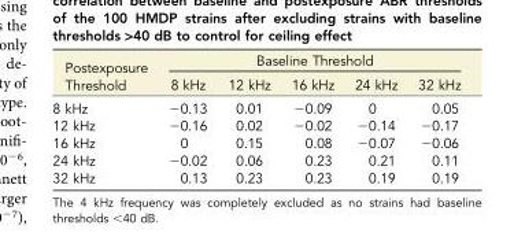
<table><thead><tr><td rowspan="2">Postexposure Threshold</td><td colspan="5">Baseline Threshold</td></tr><tr><td>8 kHz</td><td>12 kHz</td><td>16 kHz</td><td>24 kHz</td><td>32 kHz</td></tr></thead><tbody><tr><td>8 kHz</td><td>−0.13</td><td>0.01</td><td>−0.09</td><td>0</td><td>0.05</td></tr><tr><td>12 kHz</td><td>−0.16</td><td>0.02</td><td>−0.02</td><td>−0.14</td><td>−0.17</td></tr><tr><td>16 kHz</td><td>0</td><td>0.15</td><td>0.08</td><td>−0.07</td><td>−0.06</td></tr><tr><td>24 kHz</td><td>−0.02</td><td>0.06</td><td>0.23</td><td>0.21</td><td>0.11</td></tr><tr><td>32 kHz</td><td>0.13</td><td>0.23</td><td>0.23</td><td>0.19</td><td>0.19</td></tr></tbody></table>